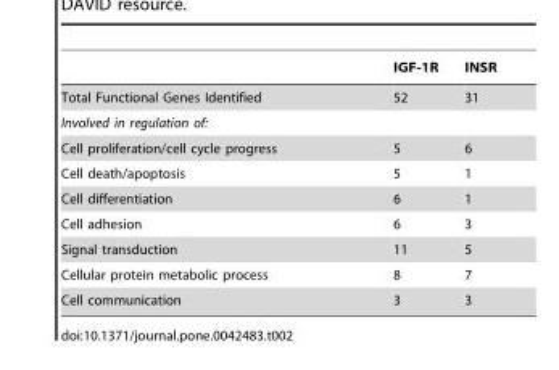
<table><thead><tr><td></td><td>IGF-1R</td><td>INSR</td></tr></thead><tbody><tr><td>Total Functional Genes Identified</td><td>52</td><td>31</td></tr><tr><td colspan="3">Involved in regulation of:</td></tr><tr><td>Cell proliferation/cell cycle progress</td><td>5</td><td>6</td></tr><tr><td>Cell death/apoptosis</td><td>5</td><td>1</td></tr><tr><td>Cell differentiation</td><td>6</td><td>1</td></tr><tr><td>Cell adhesion</td><td>6</td><td>3</td></tr><tr><td>Signal transduction</td><td>11</td><td>5</td></tr><tr><td>Cellular protein metabolic process</td><td>8</td><td>7</td></tr><tr><td>Cell communication</td><td>3</td><td>3</td></tr></tbody></table>